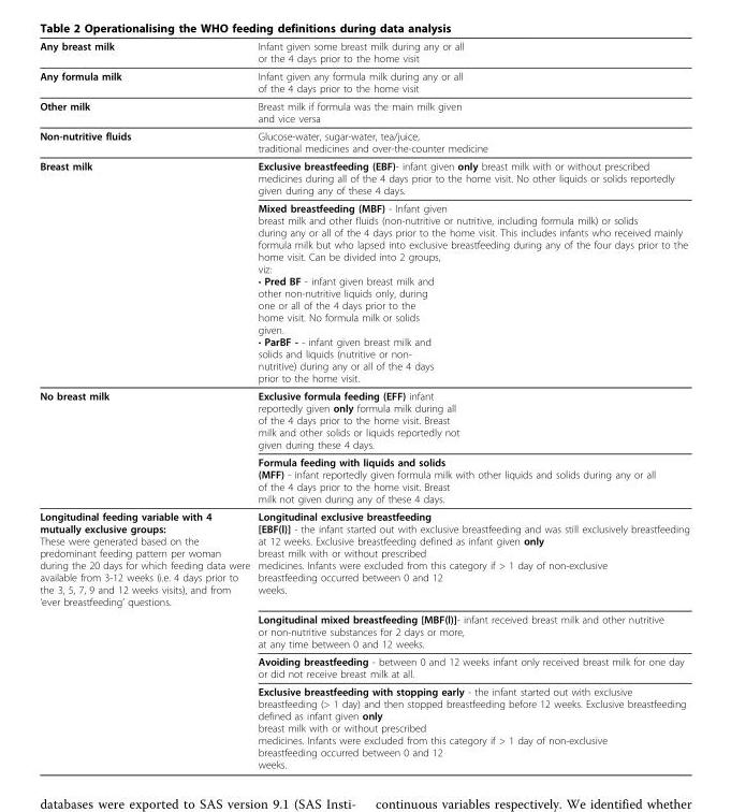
<table><thead><tr><td>Any breast milk</td><td>Infant given some breast milk during any or all or the 4 days prior to the home visit</td></tr></thead><tbody><tr><td>Any formula milk</td><td>Infant given any formula milk during any or all of the 4 days prior to the home visit</td></tr><tr><td>Other milk</td><td>Breast milk if formula was the main milk given and vice versa</td></tr><tr><td>Non-nutritive fluids</td><td>Glucose-water, sugar-water, tea/juice, traditional medicines and over-the-counter medicine</td></tr><tr><td rowspan="2">Breast milk</td><td>Exclusive breastfeeding (EBF)- infant given only breast milk with or without prescribed medicines during all of the 4 days prior to the home visit. No other liquids or solids reportedly given during any of these 4 days.</td></tr><tr><td>Mixed breastfeeding (MBF) - Infant given breast milk and other fluids (non-nutritive or nutritive, including formula milk) or solids during any or all of the 4 days prior to the home visit. This includes infants who received mainly formula milk but who lapsed into exclusive breastfeeding during any of the four days prior to the home visit. Can be divided into 2 groups, viz: • Pred BF - infant given breast milk and other non-nutritive liquids only, during one or all of the 4 days prior to the home visit. No formula milk or solids given. • ParBF - - infant given breast milk and solids and liquids (nutritive or non- nutritive) during any or all of the 4 days prior to the home visit.</td></tr><tr><td rowspan="2">No breast milk</td><td>Exclusive formula feeding (EFF) infant reportedly given only formula milk during all of the 4 days prior to the home visit. Breast milk and other solids or liquids reportedly not given during these 4 days.</td></tr><tr><td>Formula feeding with liquids and solids (MFF) - infant reportedly given formula milk with other liquids and solids during any or all of the 4 days prior to the home visit. Breast milk not given during any of these 4 days.</td></tr><tr><td rowspan="4">Longitudinal feeding variable with 4 mutually exclusive groups: These were generated based on the predominant feeding pattern per woman during the 20 days for which feeding data were available from 3-12 weeks (i.e. 4 days prior to the 3, 5, 7, 9 and 12 weeks visits), and from ‘ever breastfeeding’ questions.</td><td>Longitudinal exclusive breastfeeding [EBF(l)] - the infant started out with exclusive breastfeeding and was still exclusively breastfeeding at 12 weeks. Exclusive breastfeeding defined as infant given only breast milk with or without prescribed medicines. Infants were excluded from this category if &gt; 1 day of non-exclusive breastfeeding occurred between 0 and 12 weeks.</td></tr><tr><td>Longitudinal mixed breastfeeding [MBF(l)]- infant received breast milk and other nutritive or non-nutritive substances for 2 days or more, at any time between 0 and 12 weeks.</td></tr><tr><td>Avoiding breastfeeding - between 0 and 12 weeks infant only received breast milk for one day or did not receive breast milk at all.</td></tr><tr><td>Exclusive breastfeeding with stopping early - the infant started out with exclusive breastfeeding (&gt; 1 day) and then stopped breastfeeding before 12 weeks. Exclusive breastfeeding defined as infant given only breast milk with or without prescribed medicines. Infants were excluded from this category if &gt; 1 day of non-exclusive breastfeeding occurred between 0 and 12 weeks.</td></tr></tbody></table>